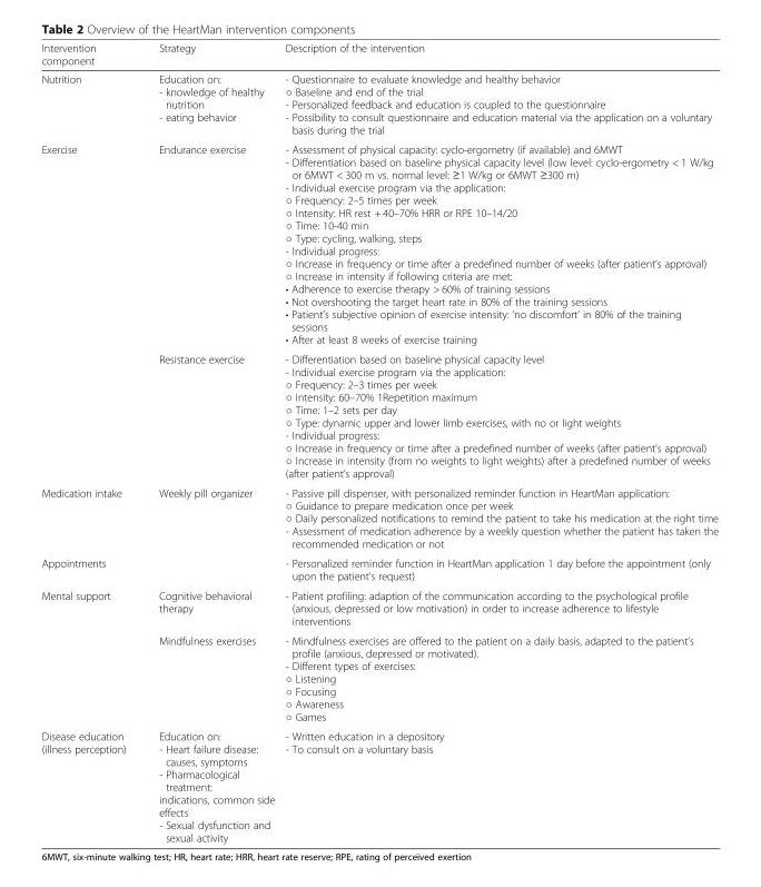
<table><thead><tr><td>Intervention component</td><td>Strategy</td><td>Description of the intervention</td></tr></thead><tbody><tr><td>Nutrition</td><td>Education on: - knowledge of healthy nutrition - eating behavior</td><td>- Questionnaire to evaluate knowledge and healthy behavior ○ Baseline and end of the trial - Personalized feedback and education is coupled to the questionnaire - Possibility to consult questionnaire and education material via the application on a voluntary basis during the trial</td></tr><tr><td rowspan="2">Exercise</td><td>Endurance exercise</td><td>- Assessment of physical capacity: cyclo-ergometry (if available) and 6MWT - Differentiation based on baseline physical capacity level (low level: cyclo-ergometry &lt; 1 W/kg or 6MWT &lt; 300 m vs. normal level: ≥1 W/kg or 6MWT ≥300 m) - Individual exercise program via the application: ○ Frequency: 2–5 times per week ○ Intensity: HR rest + 40–70% HRR or RPE 10–14/20 ○ Time: 10-40 min ○ Type: cycling, walking, steps - Individual progress: ○ Increase in frequency or time after a predefined number of weeks (after patient’s approval) ○ Increase in intensity if following criteria are met: • Adherence to exercise therapy &gt; 60% of training sessions • Not overshooting the target heart rate in 80% of the training sessions • Patient’s subjective opinion of exercise intensity: ‘no discomfort’ in 80% of the training sessions • After at least 8 weeks of exercise training</td></tr><tr><td>Resistance exercise</td><td>- Differentiation based on baseline physical capacity level - Individual exercise program via the application: ○ Frequency: 2–3 times per week ○ Intensity: 60–70% 1Repetition maximum ○ Time: 1–2 sets per day ○ Type: dynamic upper and lower limb exercises, with no or light weights - Individual progress: ○ Increase in frequency or time after a predefined number of weeks (after patient’s approval) ○ Increase in intensity (from no weights to light weights) after a predefined number of weeks (after patient’s approval)</td></tr><tr><td>Medication intake</td><td>Weekly pill organizer</td><td>- Passive pill dispenser, with personalized reminder function in HeartMan application: ○ Guidance to prepare medication once per week ○ Daily personalized notifications to remind the patient to take his medication at the right time - Assessment of medication adherence by a weekly question whether the patient has taken the recommended medication or not</td></tr><tr><td>Appointments</td><td></td><td>- Personalized reminder function in HeartMan application 1 day before the appointment (only upon the patient’s request)</td></tr><tr><td rowspan="2">Mental support</td><td>Cognitive behavioral therapy</td><td>- Patient profiling: adaption of the communication according to the psychological profile (anxious, depressed or low motivation) in order to increase adherence to lifestyle interventions</td></tr><tr><td>Mindfulness exercises</td><td>- Mindfulness exercises are offered to the patient on a daily basis, adapted to the patient’s profile (anxious, depressed or motivated). - Different types of exercises: ○ Listening ○ Focusing ○ Awareness ○ Games</td></tr><tr><td>Disease education (illness perception)</td><td>Education on: - Heart failure disease: causes, symptoms - Pharmacological treatment: indications, common side effects - Sexual dysfunction and sexual activity</td><td>- Written education in a depository - To consult on a voluntary basis</td></tr></tbody></table>